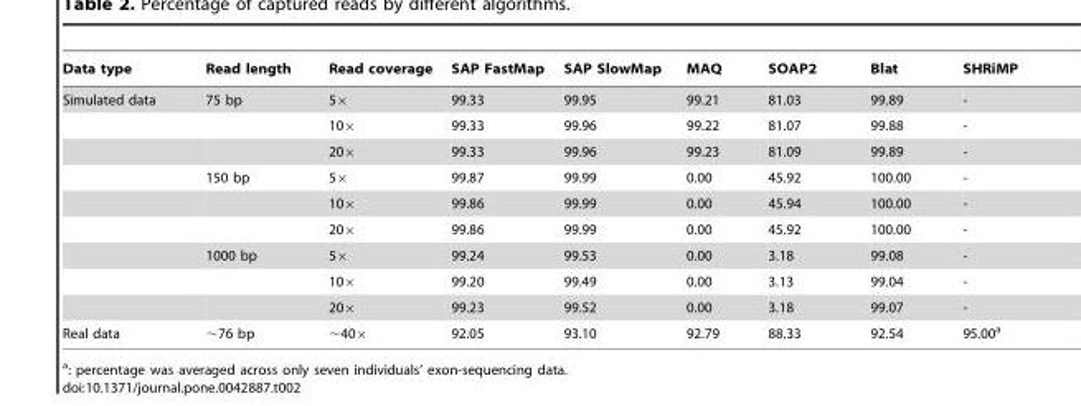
<table><thead><tr><td>Data type</td><td>Read length</td><td>Read coverage</td><td>SAP FastMap</td><td>SAP SlowMap</td><td>MAQ</td><td>SOAP2</td><td>Blat</td><td>SHRiMP</td></tr></thead><tbody><tr><td rowspan="9">Simulated data</td><td>75 bp</td><td>5×</td><td>99.33</td><td>99.95</td><td>99.21</td><td>81.03</td><td>99.89</td><td>-</td></tr><tr><td></td><td>10×</td><td>99.33</td><td>99.96</td><td>99.22</td><td>81.07</td><td>99.88</td><td>-</td></tr><tr><td></td><td>20×</td><td>99.33</td><td>99.96</td><td>99.23</td><td>81.09</td><td>99.89</td><td>-</td></tr><tr><td>150 bp</td><td>5×</td><td>99.87</td><td>99.99</td><td>0.00</td><td>45.92</td><td>100.00</td><td>-</td></tr><tr><td></td><td>10×</td><td>99.86</td><td>99.99</td><td>0.00</td><td>45.94</td><td>100.00</td><td>-</td></tr><tr><td></td><td>20×</td><td>99.86</td><td>99.99</td><td>0.00</td><td>45.92</td><td>100.00</td><td>-</td></tr><tr><td>1000 bp</td><td>5×</td><td>99.24</td><td>99.53</td><td>0.00</td><td>3.18</td><td>99.08</td><td>-</td></tr><tr><td></td><td>10×</td><td>99.20</td><td>99.49</td><td>0.00</td><td>3.13</td><td>99.04</td><td>-</td></tr><tr><td></td><td>20×</td><td>99.23</td><td>99.52</td><td>0.00</td><td>3.18</td><td>99.07</td><td>-</td></tr><tr><td>Real data</td><td>∼76 bp</td><td>∼40×</td><td>92.05</td><td>93.10</td><td>92.79</td><td>88.33</td><td>92.54</td><td>95.00<sup>a</sup></td></tr></tbody></table>